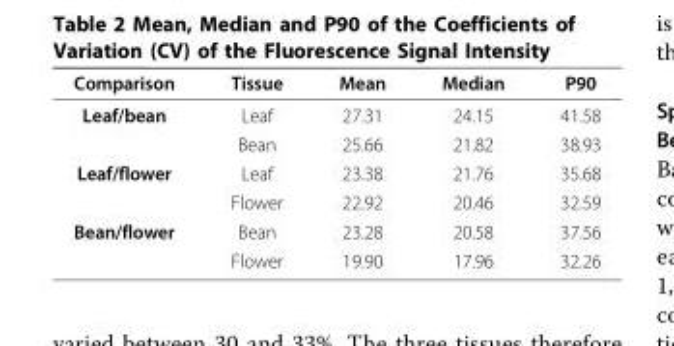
<table><thead><tr><td>Comparison</td><td>Tissue</td><td>Mean</td><td>Median</td><td>P90</td></tr></thead><tbody><tr><td rowspan="2">Leaf/bean</td><td>Leaf</td><td>27.31</td><td>24.15</td><td>41.58</td></tr><tr><td>Bean</td><td>25.66</td><td>21.82</td><td>38.93</td></tr><tr><td rowspan="2">Leaf/flower</td><td>Leaf</td><td>23.38</td><td>21.76</td><td>35.68</td></tr><tr><td>Flower</td><td>22.92</td><td>20.46</td><td>32.59</td></tr><tr><td rowspan="2">Bean/flower</td><td>Bean</td><td>23.28</td><td>20.58</td><td>37.56</td></tr><tr><td>Flower</td><td>19.90</td><td>17.96</td><td>32.26</td></tr></tbody></table>